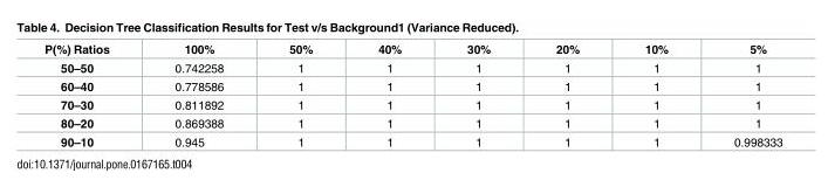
<table><thead><tr><td>P(%) Ratios</td><td>100%</td><td>50%</td><td>40%</td><td>30%</td><td>20%</td><td>10%</td><td>5%</td></tr></thead><tbody><tr><td>50–50</td><td>0.742258</td><td>1</td><td>1</td><td>1</td><td>1</td><td>1</td><td>1</td></tr><tr><td>60–40</td><td>0.778586</td><td>1</td><td>1</td><td>1</td><td>1</td><td>1</td><td>1</td></tr><tr><td>70–30</td><td>0.811892</td><td>1</td><td>1</td><td>1</td><td>1</td><td>1</td><td>1</td></tr><tr><td>80–20</td><td>0.869388</td><td>1</td><td>1</td><td>1</td><td>1</td><td>1</td><td>1</td></tr><tr><td>90–10</td><td>0.945</td><td>1</td><td>1</td><td>1</td><td>1</td><td>1</td><td>0.998333</td></tr></tbody></table>